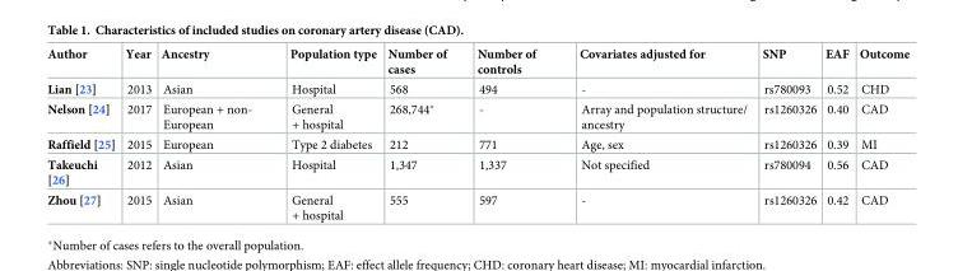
<table><thead><tr><td>Author</td><td>Year</td><td>Ancestry</td><td>Population type</td><td>Number of cases</td><td>Number of controls</td><td>Covariates adjusted for</td><td>SNP</td><td>EAF</td><td>Outcome</td></tr></thead><tbody><tr><td>Lian [23]</td><td>2013</td><td>Asian</td><td>Hospital</td><td>568</td><td>494</td><td>-</td><td>rs780093</td><td>0.52</td><td>CHD</td></tr><tr><td>Nelson [24]</td><td>2017</td><td>European + non- European</td><td>General + hospital</td><td>268,744*</td><td>-</td><td>Array and population structure/ ancestry</td><td>rs1260326</td><td>0.40</td><td>CAD</td></tr><tr><td>Raffield [25]</td><td>2015</td><td>European</td><td>Type 2 diabetes</td><td>212</td><td>771</td><td>Age, sex</td><td>rs1260326</td><td>0.39</td><td>MI</td></tr><tr><td>Takeuchi [26]</td><td>2012</td><td>Asian</td><td>Hospital</td><td>1,347</td><td>1,337</td><td>Not specified</td><td>rs780094</td><td>0.56</td><td>CAD</td></tr><tr><td>Zhou [27]</td><td>2015</td><td>Asian</td><td>General + hospital</td><td>555</td><td>597</td><td>-</td><td>rs1260326</td><td>0.42</td><td>CAD</td></tr></tbody></table>